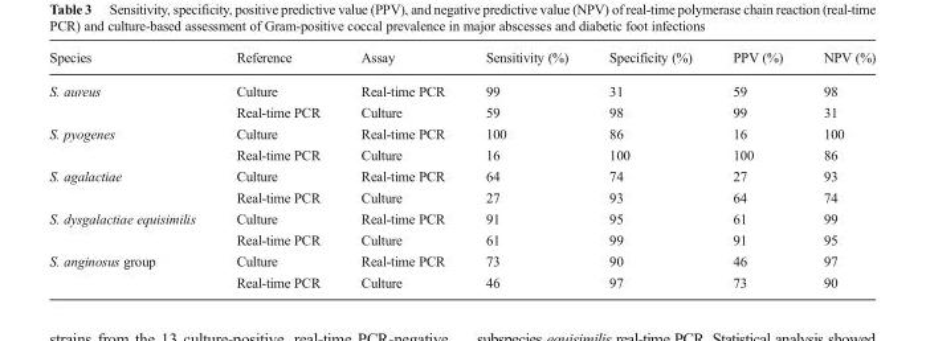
<table><thead><tr><td>Species</td><td>Reference</td><td>Assay</td><td>Sensitivity (%)</td><td>Specificity (%)</td><td>PPV (%)</td><td>NPV (%)</td></tr></thead><tbody><tr><td rowspan="2">S. aureus</td><td>Culture</td><td>Real-time PCR</td><td>99</td><td>31</td><td>59</td><td>98</td></tr><tr><td>Real-time PCR</td><td>Culture</td><td>59</td><td>98</td><td>99</td><td>31</td></tr><tr><td rowspan="2">S. pyogenes</td><td>Culture</td><td>Real-time PCR</td><td>100</td><td>86</td><td>16</td><td>100</td></tr><tr><td>Real-time PCR</td><td>Culture</td><td>16</td><td>100</td><td>100</td><td>86</td></tr><tr><td rowspan="2">S. agalactiae</td><td>Culture</td><td>Real-time PCR</td><td>64</td><td>74</td><td>27</td><td>93</td></tr><tr><td>Real-time PCR</td><td>Culture</td><td>27</td><td>93</td><td>64</td><td>74</td></tr><tr><td rowspan="2">S. dysgalactiae equisimilis</td><td>Culture</td><td>Real-time PCR</td><td>91</td><td>95</td><td>61</td><td>99</td></tr><tr><td>Real-time PCR</td><td>Culture</td><td>61</td><td>99</td><td>91</td><td>95</td></tr><tr><td rowspan="2">S. anginosus group</td><td>Culture</td><td>Real-time PCR</td><td>73</td><td>90</td><td>46</td><td>97</td></tr><tr><td>Real-time PCR</td><td>Culture</td><td>46</td><td>97</td><td>73</td><td>90</td></tr></tbody></table>